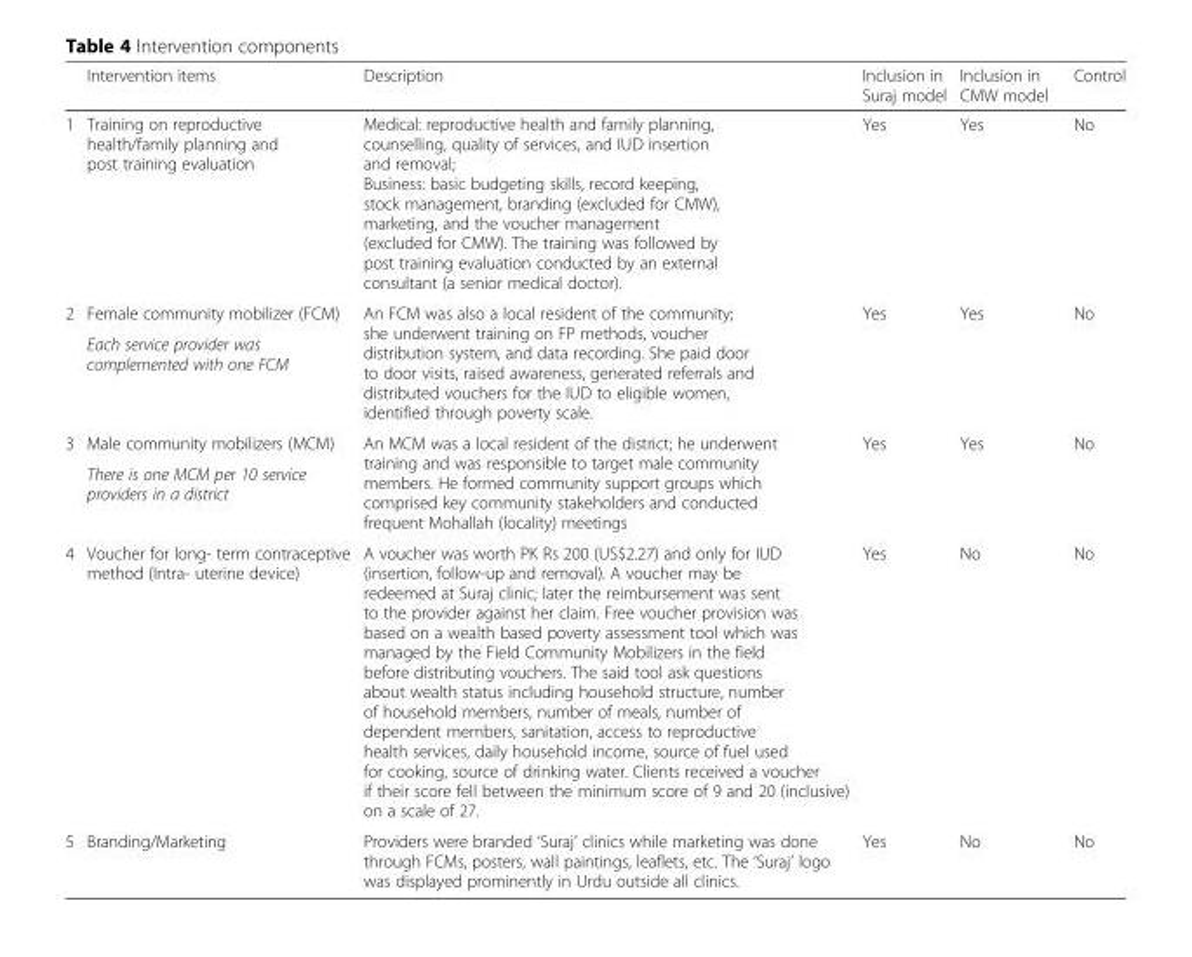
<table><thead><tr><td></td><td>Intervention items</td><td>Description</td><td>Inclusion in Suraj model</td><td>Inclusion in CMW model</td><td>Control</td></tr></thead><tbody><tr><td>1</td><td>Training on reproductive health/family planning and post training evaluation</td><td>Medical: reproductive health and family planning, counselling, quality of services, and IUD insertion and removal; Business: basic budgeting skills, record keeping, stock management, branding (excluded for CMW), marketing, and the voucher management (excluded for CMW). The training was followed by post training evaluation conducted by an external consultant (a senior medical doctor).</td><td>Yes</td><td>Yes</td><td>No</td></tr><tr><td rowspan="2">2</td><td>Female community mobilizer (FCM)</td><td rowspan="2">An FCM was also a local resident of the community; she underwent training on FP methods, voucher distribution system, and data recording. She paid door to door visits, raised awareness, generated referrals and distributed vouchers for the IUD to eligible women, identified through poverty scale.</td><td rowspan="2">Yes</td><td rowspan="2">Yes</td><td rowspan="2">No</td></tr><tr><td>Each service provider was complemented with one FCM</td></tr><tr><td rowspan="2">3</td><td>Male community mobilizers (MCM)</td><td rowspan="2">An MCM was a local resident of the district; he underwent training and was responsible to target male community members. He formed community support groups which comprised key community stakeholders and conducted frequent Mohallah (locality) meetings</td><td rowspan="2">Yes</td><td rowspan="2">Yes</td><td rowspan="2">No</td></tr><tr><td>There is one MCM per 10 service providers in a district</td></tr><tr><td>4</td><td>Voucher for long- term contraceptive method (Intra- uterine device)</td><td>A voucher was worth PK Rs 200 (US$2.27) and only for IUD (insertion, follow-up and removal). A voucher may be redeemed at Suraj clinic; later the reimbursement was sent to the provider against her claim. Free voucher provision was based on a wealth based poverty assessment tool which was managed by the Field Community Mobilizers in the field before distributing vouchers. The said tool ask questions about wealth status including household structure, number of household members, number of meals, number of dependent members, sanitation, access to reproductive health services, daily household income, source of fuel used for cooking, source of drinking water. Clients received a voucher if their score fell between the minimum score of 9 and 20 (inclusive) on a scale of 27.</td><td>Yes</td><td>No</td><td>No</td></tr><tr><td>5</td><td>Branding/Marketing</td><td>Providers were branded ‘Suraj’ clinics while marketing was done through FCMs, posters, wall paintings, leaflets, etc. The ‘Suraj’ logo was displayed prominently in Urdu outside all clinics.</td><td>Yes</td><td>No</td><td>No</td></tr></tbody></table>